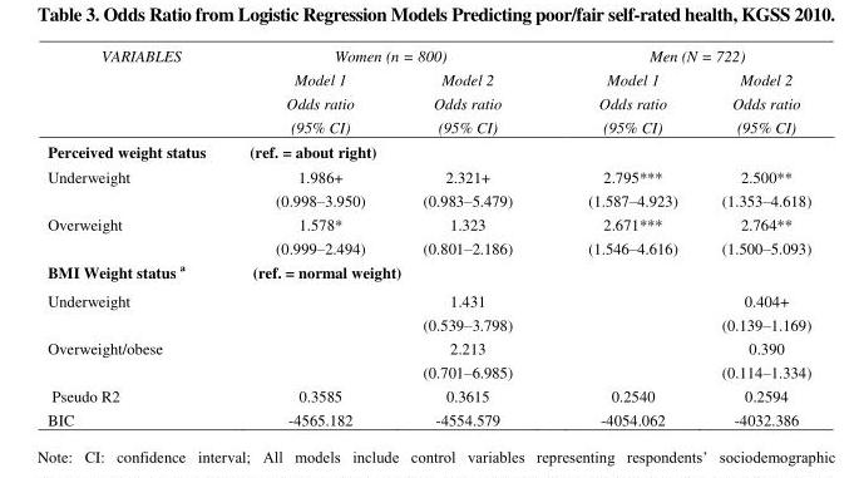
<table><thead><tr><td rowspan="4">VARIABLES</td><td colspan="2">Women (n = 800)</td><td colspan="2">Men (N = 722)</td></tr><tr><td rowspan="3">Model 1 Odds ratio (95% CI)</td><td rowspan="3">Model 2 Odds ratio (95% CI)</td><td rowspan="3">Model 1 Odds ratio (95% CI)</td><td rowspan="3">Model 2 Odds ratio (95% CI)</td></tr><tr></tr><tr></tr></thead><tbody><tr><td>Perceived weight status</td><td>(ref. = about right)</td><td></td><td></td><td></td></tr><tr><td rowspan="2">Underweight</td><td>1.986+</td><td>2.321+</td><td>2.795***</td><td>2.500**</td></tr><tr><td>(0.998–3.950)</td><td>(0.983–5.479)</td><td>(1.587–4.923)</td><td>(1.353–4.618)</td></tr><tr><td rowspan="2">Overweight</td><td>1.578*</td><td>1.323</td><td>2.671***</td><td>2.764**</td></tr><tr><td>(0.999–2.494)</td><td>(0.801–2.186)</td><td>(1.546–4.616)</td><td>(1.500–5.093)</td></tr><tr><td>BMI Weight status <sup>a</sup></td><td>(ref. = normal weight)</td><td></td><td></td><td></td></tr><tr><td rowspan="2">Underweight</td><td></td><td>1.431</td><td></td><td>0.404+</td></tr><tr><td></td><td>(0.539–3.798)</td><td></td><td>(0.139–1.169)</td></tr><tr><td rowspan="2">Overweight/obese</td><td></td><td>2.213</td><td></td><td>0.390</td></tr><tr><td></td><td>(0.701–6.985)</td><td></td><td>(0.114–1.334)</td></tr><tr><td>Pseudo R2</td><td>0.3585</td><td>0.3615</td><td>0.2540</td><td>0.2594</td></tr><tr><td>BIC</td><td>-4565.182</td><td>-4554.579</td><td>-4054.062</td><td>-4032.386</td></tr></tbody></table>